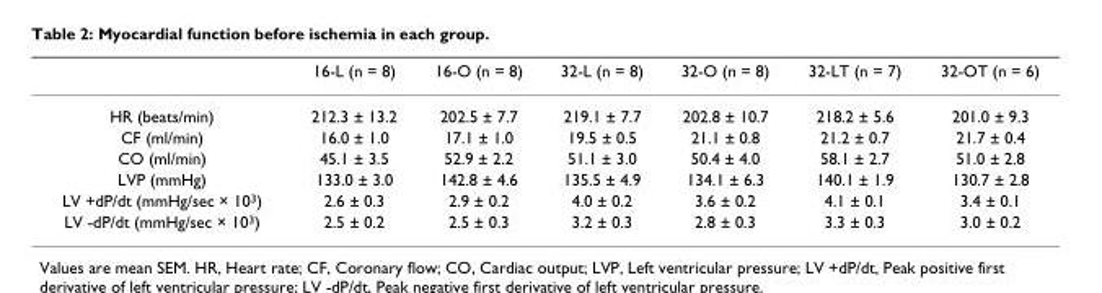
<table><thead><tr><td></td><td>16-L (n = 8)</td><td>16-O (n = 8)</td><td>32-L (n = 8)</td><td>32-O (n = 8)</td><td>32-LT (n = 7)</td><td>32-OT (n = 6)</td></tr></thead><tbody><tr><td>HR (beats/min)</td><td>212.3 ± 13.2</td><td>202.5 ± 7.7</td><td>219.1 ± 7.7</td><td>202.8 ± 10.7</td><td>218.2 ± 5.6</td><td>201.0 ± 9.3</td></tr><tr><td>CF (ml/min)</td><td>16.0 ± 1.0</td><td>17.1 ± 1.0</td><td>19.5 ± 0.5</td><td>21.1 ± 0.8</td><td>21.2 ± 0.7</td><td>21.7 ± 0.4</td></tr><tr><td>CO (ml/min)</td><td>45.1 ± 3.5</td><td>52.9 ± 2.2</td><td>51.1 ± 3.0</td><td>50.4 ± 4.0</td><td>58.1 ± 2.7</td><td>51.0 ± 2.8</td></tr><tr><td>LVP (mmHg)</td><td>133.0 ± 3.0</td><td>142.8 ± 4.6</td><td>135.5 ± 4.9</td><td>134.1 ± 6.3</td><td>140.1 ± 1.9</td><td>130.7 ± 2.8</td></tr><tr><td>LV +dP/dt (mmHg/sec × 10<sup>3</sup>)</td><td>2.6 ± 0.3</td><td>2.9 ± 0.2</td><td>4.0 ± 0.2</td><td>3.6 ± 0.2</td><td>4.1 ± 0.1</td><td>3.4 ± 0.1</td></tr><tr><td>LV -dP/dt (mmHg/sec × 10<sup>3</sup>)</td><td>2.5 ± 0.2</td><td>2.5 ± 0.3</td><td>3.2 ± 0.3</td><td>2.8 ± 0.3</td><td>3.3 ± 0.3</td><td>3.0 ± 0.2</td></tr></tbody></table>